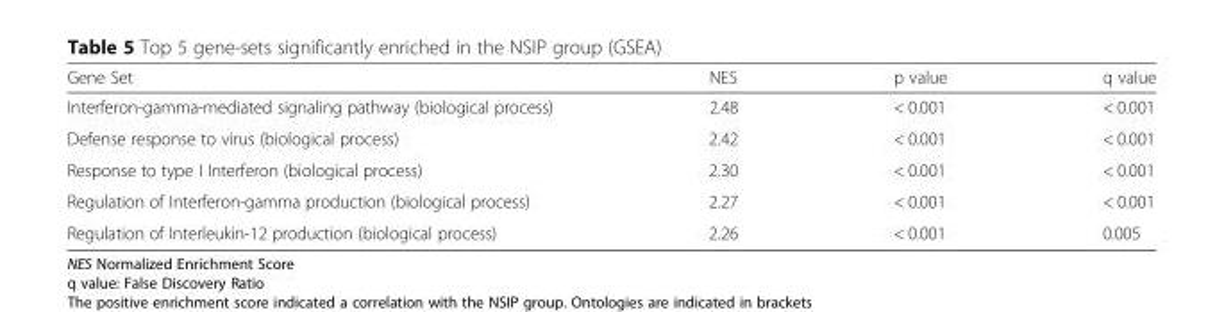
<table><thead><tr><td>Gene Set</td><td>NES</td><td>p value</td><td>q value</td></tr></thead><tbody><tr><td>Interferon-gamma-mediated signaling pathway (biological process)</td><td>2.48</td><td>&lt; 0.001</td><td>&lt; 0.001</td></tr><tr><td>Defense response to virus (biological process)</td><td>2.42</td><td>&lt; 0.001</td><td>&lt; 0.001</td></tr><tr><td>Response to type I Interferon (biological process)</td><td>2.30</td><td>&lt; 0.001</td><td>&lt; 0.001</td></tr><tr><td>Regulation of Interferon-gamma production (biological process)</td><td>2.27</td><td>&lt; 0.001</td><td>&lt; 0.001</td></tr><tr><td>Regulation of Interleukin-12 production (biological process)</td><td>2.26</td><td>&lt; 0.001</td><td>0.005</td></tr></tbody></table>